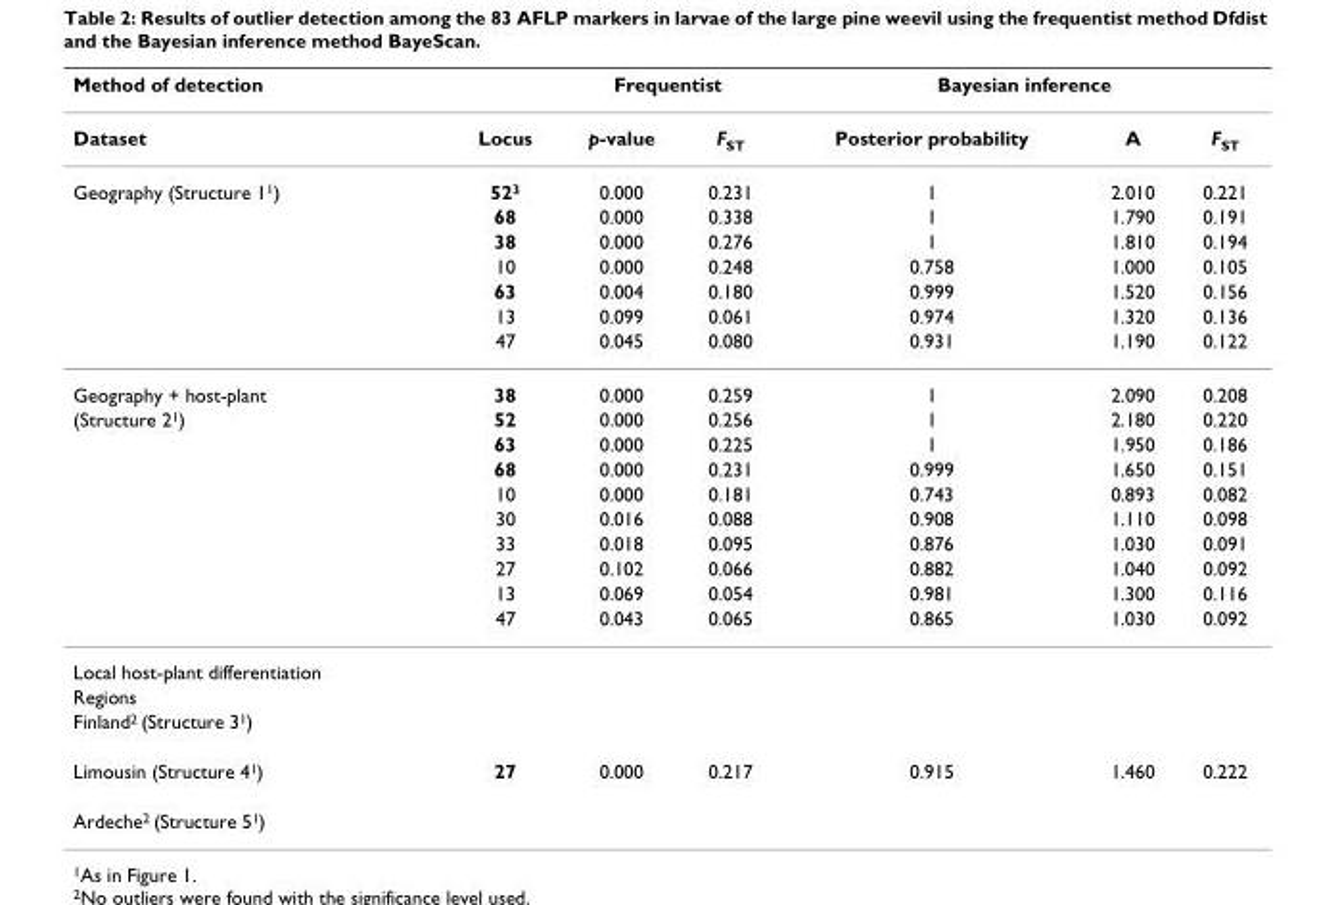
<table><thead><tr><td rowspan="2">Method of detection Dataset</td><td rowspan="2">Locus</td><td colspan="2">Frequentist</td><td colspan="3">Bayesian inference</td></tr><tr><td>p-value</td><td>F<sub>ST</sub></td><td>Posterior probability</td><td>A</td><td>F<sub>ST</sub></td></tr></thead><tbody><tr><td rowspan="7">Geography (Structure 1<sup>1</sup>)</td><td>52<sup>3</sup></td><td>0.000</td><td>0.231</td><td>1</td><td>2.010</td><td>0.221</td></tr><tr><td>68</td><td>0.000</td><td>0.338</td><td>1</td><td>1.790</td><td>0.191</td></tr><tr><td>38</td><td>0.000</td><td>0.276</td><td>1</td><td>1.810</td><td>0.194</td></tr><tr><td>10</td><td>0.000</td><td>0.248</td><td>0.758</td><td>1.000</td><td>0.105</td></tr><tr><td>63</td><td>0.004</td><td>0.180</td><td>0.999</td><td>1.520</td><td>0.156</td></tr><tr><td>13</td><td>0.099</td><td>0.061</td><td>0.974</td><td>1.320</td><td>0.136</td></tr><tr><td>47</td><td>0.045</td><td>0.080</td><td>0.931</td><td>1.190</td><td>0.122</td></tr><tr><td>Geography + host-plant</td><td>38</td><td>0.000</td><td>0.259</td><td>1</td><td>2.090</td><td>0.208</td></tr><tr><td rowspan="9">(Structure 2<sup>1</sup>)</td><td>52</td><td>0.000</td><td>0.256</td><td>1</td><td>2.180</td><td>0.220</td></tr><tr><td>63</td><td>0.000</td><td>0.225</td><td>1</td><td>1.950</td><td>0.186</td></tr><tr><td>68</td><td>0.000</td><td>0.231</td><td>0.999</td><td>1.650</td><td>0.151</td></tr><tr><td>10</td><td>0.000</td><td>0.181</td><td>0.743</td><td>0.893</td><td>0.082</td></tr><tr><td>30</td><td>0.016</td><td>0.088</td><td>0.908</td><td>1.110</td><td>0.098</td></tr><tr><td>33</td><td>0.018</td><td>0.095</td><td>0.876</td><td>1.030</td><td>0.091</td></tr><tr><td>27</td><td>0.102</td><td>0.066</td><td>0.882</td><td>1.040</td><td>0.092</td></tr><tr><td>13</td><td>0.069</td><td>0.054</td><td>0.981</td><td>1.300</td><td>0.116</td></tr><tr><td>47</td><td>0.043</td><td>0.065</td><td>0.865</td><td>1.030</td><td>0.092</td></tr><tr><td colspan="7">Local host-plant differentiation</td></tr><tr><td colspan="7">Regions</td></tr><tr><td colspan="7">Finland<sup>2</sup> (Structure 3<sup>1</sup>)</td></tr><tr><td>Limousin (Structure 4<sup>1</sup>)</td><td>27</td><td>0.000</td><td>0.217</td><td>0.915</td><td>1.460</td><td>0.222</td></tr><tr><td>Ardeche<sup>2</sup> (Structure 5<sup>1</sup>)</td><td></td><td></td><td></td><td></td><td></td><td></td></tr></tbody></table>